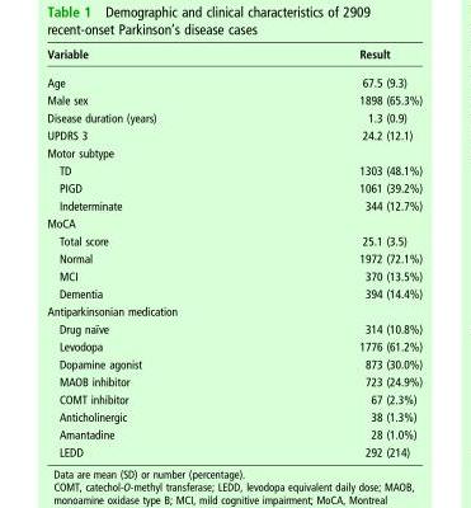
<table><thead><tr><td>Variable</td><td>Result</td></tr></thead><tbody><tr><td>Age</td><td>67.5 (9.3)</td></tr><tr><td>Male sex</td><td>1898 (65.3%)</td></tr><tr><td>Disease duration (years)</td><td>1.3 (0.9)</td></tr><tr><td>UPDRS 3</td><td>24.2 (12.1)</td></tr><tr><td colspan="2">Motor subtype</td></tr><tr><td>TD</td><td>1303 (48.1%)</td></tr><tr><td>PIGD</td><td>1061 (39.2%)</td></tr><tr><td>Indeterminate</td><td>344 (12.7%)</td></tr><tr><td colspan="2">MoCA</td></tr><tr><td>Total score</td><td>25.1 (3.5)</td></tr><tr><td>Normal</td><td>1972 (72.1%)</td></tr><tr><td>MCI</td><td>370 (13.5%)</td></tr><tr><td>Dementia</td><td>394 (14.4%)</td></tr><tr><td colspan="2">Antiparkinsonian medication</td></tr><tr><td>Drug naïve</td><td>314 (10.8%)</td></tr><tr><td>Levodopa</td><td>1776 (61.2%)</td></tr><tr><td>Dopamine agonist</td><td>873 (30.0%)</td></tr><tr><td>MAOB inhibitor</td><td>723 (24.9%)</td></tr><tr><td>COMT inhibitor</td><td>67 (2.3%)</td></tr><tr><td>Anticholinergic</td><td>38 (1.3%)</td></tr><tr><td>Amantadine</td><td>28 (1.0%)</td></tr><tr><td>LEDD</td><td>292 (214)</td></tr></tbody></table>